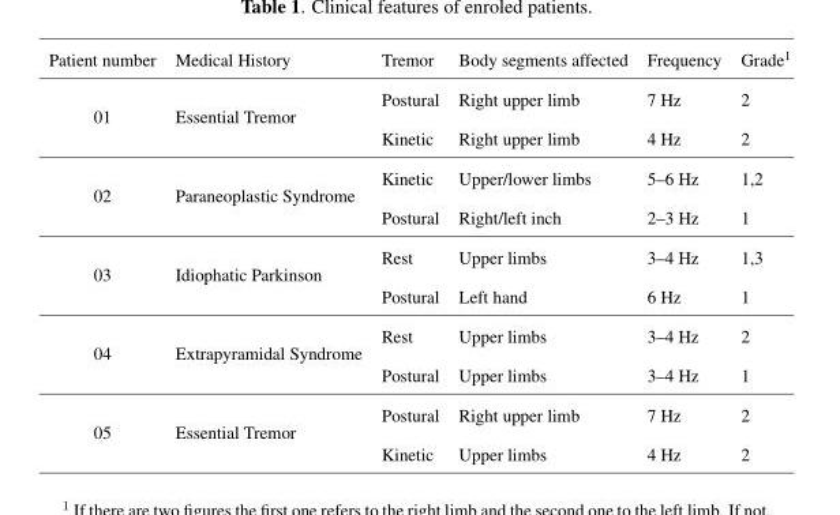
<table><thead><tr><td>Patient number</td><td>Medical History</td><td>Tremor</td><td>Body segments affected</td><td>Frequency</td><td>Grade<sup>1</sup></td></tr></thead><tbody><tr><td rowspan="2">01</td><td rowspan="2">Essential Tremor</td><td>Postural</td><td>Right upper limb</td><td>7 Hz</td><td>2</td></tr><tr><td>Kinetic</td><td>Right upper limb</td><td>4 Hz</td><td>2</td></tr><tr><td rowspan="2">02</td><td rowspan="2">Paraneoplastic Syndrome</td><td>Kinetic</td><td>Upper/lower limbs</td><td>5–6 Hz</td><td>1,2</td></tr><tr><td>Postural</td><td>Right/left inch</td><td>2–3 Hz</td><td>1</td></tr><tr><td rowspan="2">03</td><td rowspan="2">Idiophatic Parkinson</td><td>Rest</td><td>Upper limbs</td><td>3–4 Hz</td><td>1,3</td></tr><tr><td>Postural</td><td>Left hand</td><td>6 Hz</td><td>1</td></tr><tr><td rowspan="2">04</td><td rowspan="2">Extrapyramidal Syndrome</td><td>Rest</td><td>Upper limbs</td><td>3–4 Hz</td><td>2</td></tr><tr><td>Postural</td><td>Upper limbs</td><td>3–4 Hz</td><td>1</td></tr><tr><td rowspan="2">05</td><td rowspan="2">Essential Tremor</td><td>Postural</td><td>Right upper limb</td><td>7 Hz</td><td>2</td></tr><tr><td>Kinetic</td><td>Upper limbs</td><td>4 Hz</td><td>2</td></tr></tbody></table>